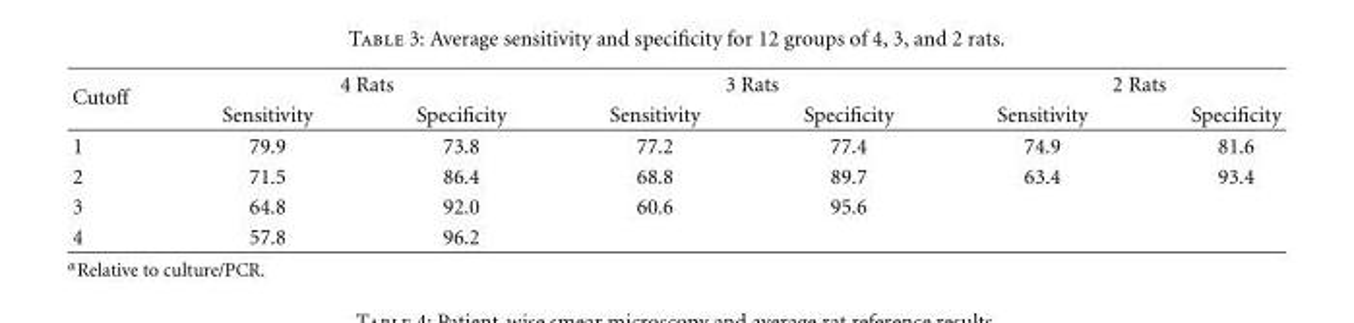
<table><thead><tr><td rowspan="2">Cutoff</td><td colspan="2">4 Rats</td><td colspan="2">3 Rats</td><td colspan="2">2 Rats</td></tr><tr><td>Sensitivity</td><td>Specificity</td><td>Sensitivity</td><td>Specificity</td><td>Sensitivity</td><td>Specificity</td></tr></thead><tbody><tr><td>1</td><td>79.9</td><td>73.8</td><td>77.2</td><td>77.4</td><td>74.9</td><td>81.6</td></tr><tr><td>2</td><td>71.5</td><td>86.4</td><td>68.8</td><td>89.7</td><td>63.4</td><td>93.4</td></tr><tr><td>3</td><td>64.8</td><td>92.0</td><td>60.6</td><td>95.6</td><td></td><td></td></tr><tr><td>4</td><td>57.8</td><td>96.2</td><td></td><td></td><td></td><td></td></tr></tbody></table>